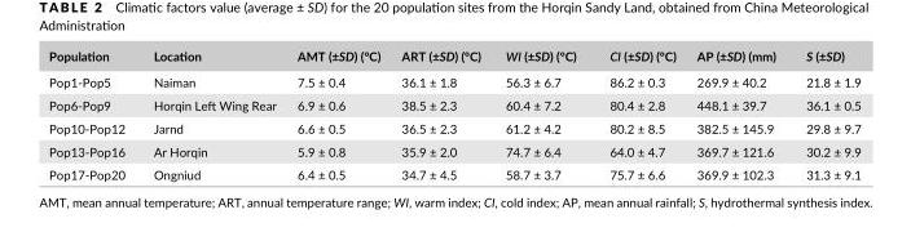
<table><thead><tr><td>Population</td><td>Location</td><td>AMT (±SD) (°C)</td><td>ART (±SD) (°C)</td><td>WI (±SD) (°C)</td><td>CI (±SD) (°C)</td><td>AP (±SD) (mm)</td><td>S (±SD)</td></tr></thead><tbody><tr><td>Pop1- Pop5</td><td>Naiman</td><td>7.5 ± 0.4</td><td>36.1 ± 1.8</td><td>56.3 ± 6.7</td><td>86.2 ± 0.3</td><td>269.9 ± 40.2</td><td>21.8 ± 1.9</td></tr><tr><td>Pop6- Pop9</td><td>Horqin Left Wing Rear</td><td>6.9 ± 0.6</td><td>38.5 ± 2.3</td><td>60.4 ± 7.2</td><td>80.4 ± 2.8</td><td>448.1 ± 39.7</td><td>36.1 ± 0.5</td></tr><tr><td>Pop10- Pop12</td><td>Jarnd</td><td>6.6 ± 0.5</td><td>36.5 ± 2.3</td><td>61.2 ± 4.2</td><td>80.2 ± 8.5</td><td>382.5 ± 145.9</td><td>29.8 ± 9.7</td></tr><tr><td>Pop13- Pop16</td><td>Ar Horqin</td><td>5.9 ± 0.8</td><td>35.9 ± 2.0</td><td>74.7 ± 6.4</td><td>64.0 ± 4.7</td><td>369.7 ± 121.6</td><td>30.2 ± 9.9</td></tr><tr><td>Pop17- Pop20</td><td>Ongniud</td><td>6.4 ± 0.5</td><td>34.7 ± 4.5</td><td>58.7 ± 3.7</td><td>75.7 ± 6.6</td><td>369.9 ± 102.3</td><td>31.3 ± 9.1</td></tr></tbody></table>